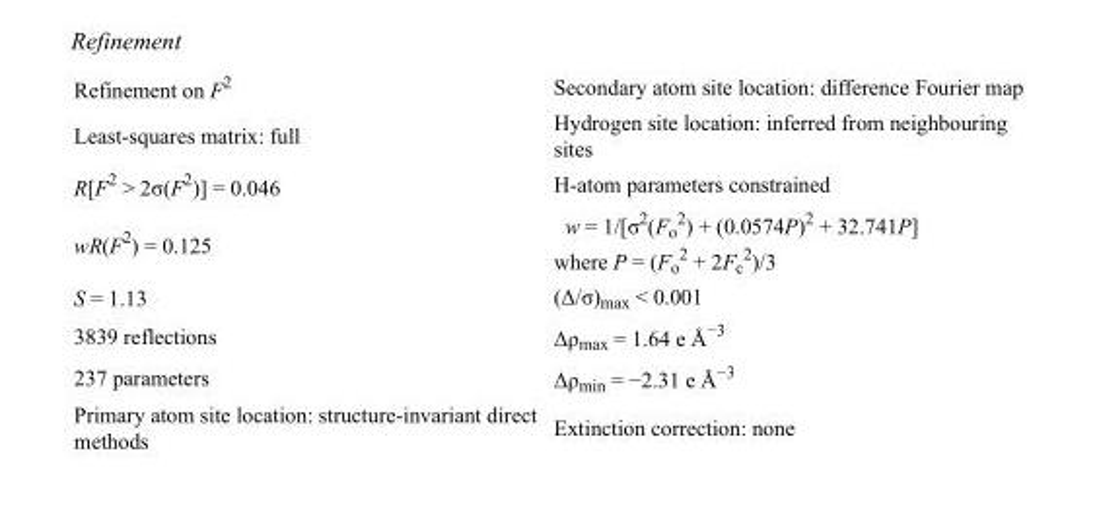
<table><tbody><tr><td>Refinement on F<sup>2</sup></td><td>Secondary atom site location: difference Fourier map</td></tr><tr><td>Least-squares matrix: full</td><td>Hydrogen site location: inferred from neighbouring sites</td></tr><tr><td>R[F<sup>2</sup> &gt; 2σ(F<sup>2</sup>)] = 0.046</td><td>H-atom parameters constrained</td></tr><tr><td>wR(F<sup>2</sup>) = 0.125</td><td>w = 1/[σ<sup>2</sup>(F<sub>o</sub> <sup>2</sup>) + (0.0574P)<sup>2</sup> + 32.741P] where P = (F<sub>o</sub> <sup>2</sup> + 2F<sub>c</sub> <sup>2</sup>)/3</td></tr><tr><td>S = 1.13</td><td>(Δ/σ)<sub>max</sub> &lt; 0.001</td></tr><tr><td>3839 reflections</td><td>Δρ<sub>max</sub> = 1.64 e Å<sup>−3</sup></td></tr><tr><td>237 parameters</td><td>Δρ<sub>min</sub> = −2.31 e Å<sup>−3</sup></td></tr><tr><td>Primary atom site location: structure-invariant direct methods</td><td>Extinction correction: none</td></tr></tbody></table>